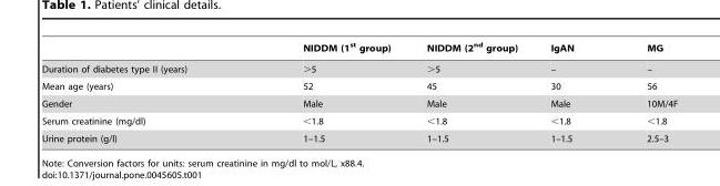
<table><thead><tr><td></td><td>NIDDM (1<sup>st</sup> group)</td><td>NIDDM (2<sup>nd</sup> group)</td><td>IgAN</td><td>MG</td></tr></thead><tbody><tr><td>Duration of diabetes type II (years)</td><td>&gt;5</td><td>&gt;5</td><td>–</td><td>–</td></tr><tr><td>Mean age (years)</td><td>52</td><td>45</td><td>30</td><td>56</td></tr><tr><td>Gender</td><td>Male</td><td>Male</td><td>Male</td><td>10M/4F</td></tr><tr><td>Serum creatinine (mg/dl)</td><td>&lt;1.8</td><td>&lt;1.8</td><td>&lt;1.8</td><td>&lt;1.8</td></tr><tr><td>Urine protein (g/l)</td><td>1–1.5</td><td>1–1.5</td><td>1–1.5</td><td>2.5–3</td></tr></tbody></table>